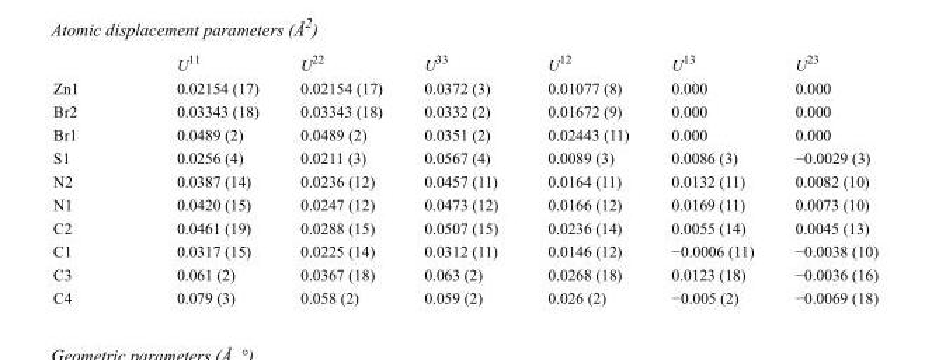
<table><thead><tr><td></td><td>U<sup>11</sup></td><td>U<sup>22</sup></td><td>U<sup>33</sup></td><td>U<sup>12</sup></td><td>U<sup>13</sup></td><td>U<sup>23</sup></td></tr></thead><tbody><tr><td>Zn1</td><td>0.02154 (17)</td><td>0.02154 (17)</td><td>0.0372 (3)</td><td>0.01077 (8)</td><td>0.000</td><td>0.000</td></tr><tr><td>Br2</td><td>0.03343 (18)</td><td>0.03343 (18)</td><td>0.0332 (2)</td><td>0.01672 (9)</td><td>0.000</td><td>0.000</td></tr><tr><td>Br1</td><td>0.0489 (2)</td><td>0.0489 (2)</td><td>0.0351 (2)</td><td>0.02443 (11)</td><td>0.000</td><td>0.000</td></tr><tr><td>S1</td><td>0.0256 (4)</td><td>0.0211 (3)</td><td>0.0567 (4)</td><td>0.0089 (3)</td><td>0.0086 (3)</td><td>−0.0029 (3)</td></tr><tr><td>N2</td><td>0.0387 (14)</td><td>0.0236 (12)</td><td>0.0457 (11)</td><td>0.0164 (11)</td><td>0.0132 (11)</td><td>0.0082 (10)</td></tr><tr><td>N1</td><td>0.0420 (15)</td><td>0.0247 (12)</td><td>0.0473 (12)</td><td>0.0166 (12)</td><td>0.0169 (11)</td><td>0.0073 (10)</td></tr><tr><td>C2</td><td>0.0461 (19)</td><td>0.0288 (15)</td><td>0.0507 (15)</td><td>0.0236 (14)</td><td>0.0055 (14)</td><td>0.0045 (13)</td></tr><tr><td>C1</td><td>0.0317 (15)</td><td>0.0225 (14)</td><td>0.0312 (11)</td><td>0.0146 (12)</td><td>−0.0006 (11)</td><td>−0.0038 (10)</td></tr><tr><td>C3</td><td>0.061 (2)</td><td>0.0367 (18)</td><td>0.063 (2)</td><td>0.0268 (18)</td><td>0.0123 (18)</td><td>−0.0036 (16)</td></tr><tr><td>C4</td><td>0.079 (3)</td><td>0.058 (2)</td><td>0.059 (2)</td><td>0.026 (2)</td><td>−0.005 (2)</td><td>−0.0069 (18)</td></tr></tbody></table>